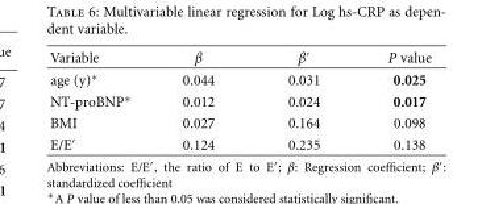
<table><thead><tr><td>Variable</td><td>β</td><td>β′</td><td>P value</td></tr></thead><tbody><tr><td>age (y)∗</td><td>0.044</td><td>0.031</td><td>0.025</td></tr><tr><td>NT-proBNP∗</td><td>0.012</td><td>0.024</td><td>0.017</td></tr><tr><td>BMI</td><td>0.027</td><td>0.164</td><td>0.098</td></tr><tr><td>E/E′</td><td>0.124</td><td>0.235</td><td>0.138</td></tr></tbody></table>